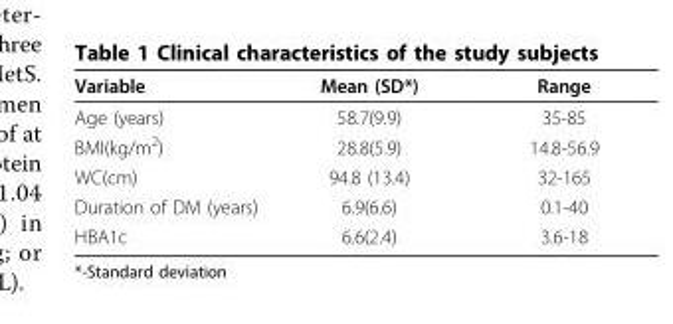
<table><thead><tr><td>Variable</td><td>Mean (SD*)</td><td>Range</td></tr></thead><tbody><tr><td>Age (years)</td><td>58.7(9.9)</td><td>35-85</td></tr><tr><td>BMI(kg/m<sup>2</sup>)</td><td>28.8(5.9)</td><td>14.8-56.9</td></tr><tr><td>WC(cm)</td><td>94.8 (13.4)</td><td>32-165</td></tr><tr><td>Duration of DM (years)</td><td>6.9(6.6)</td><td>0.1-40</td></tr><tr><td>HBA1c</td><td>6.6(2.4)</td><td>3.6-18</td></tr></tbody></table>